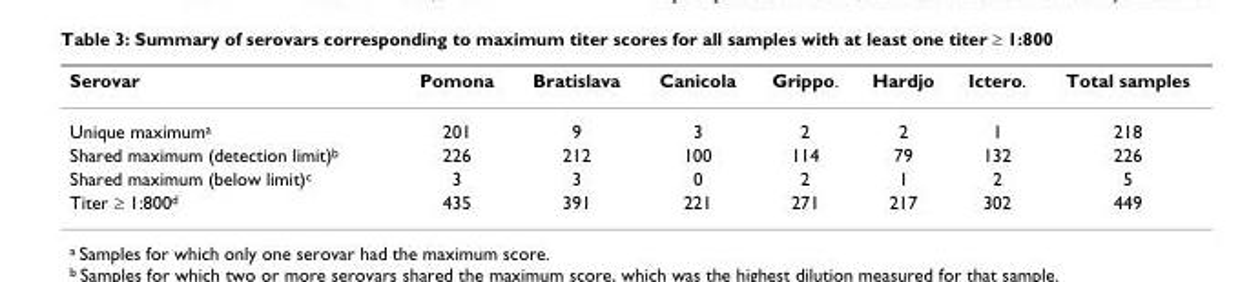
<table><thead><tr><td>Serovar</td><td>Pomona</td><td>Bratislava</td><td>Canicola</td><td>Grippo.</td><td>Hardjo</td><td>Ictero.</td><td>Total samples</td></tr></thead><tbody><tr><td>Unique maximum<sup>a</sup></td><td>201</td><td>9</td><td>3</td><td>2</td><td>2</td><td>1</td><td>218</td></tr><tr><td>Shared maximum (detection limit)<sup>b</sup></td><td>226</td><td>212</td><td>100</td><td>114</td><td>79</td><td>132</td><td>226</td></tr><tr><td>Shared maximum (below limit)<sup>c</sup></td><td>3</td><td>3</td><td>0</td><td>2</td><td>1</td><td>2</td><td>5</td></tr><tr><td>Titer ≥ 1:800<sup>d</sup></td><td>435</td><td>391</td><td>221</td><td>271</td><td>217</td><td>302</td><td>449</td></tr></tbody></table>